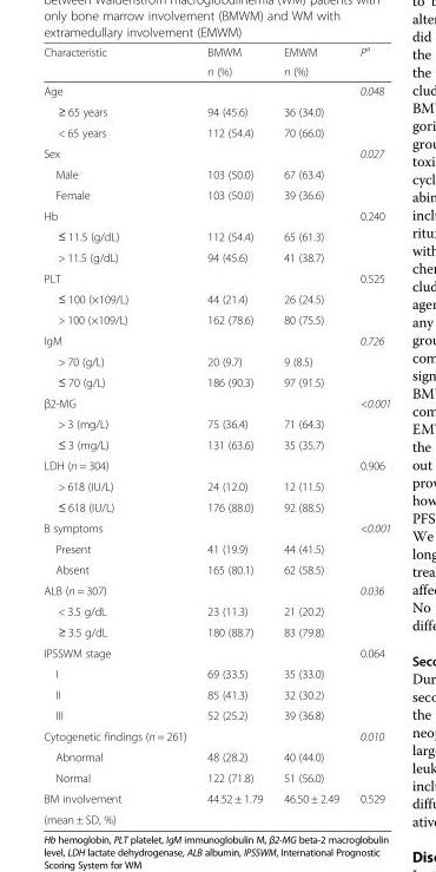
<table><thead><tr><td rowspan="2">Characteristic</td><td rowspan="2">BMWM n (%)</td><td rowspan="2">EMWM n (%)</td><td rowspan="2">P<sup>a</sup></td></tr><tr></tr></thead><tbody><tr><td colspan="3">Age</td><td rowspan="3">0.048</td></tr><tr><td>≥ 65 years</td><td>94 (45.6)</td><td>36 (34.0)</td></tr><tr><td>&lt; 65 years</td><td>112 (54.4)</td><td>70 (66.0)</td></tr><tr><td colspan="3">Sex</td><td rowspan="3">0.027</td></tr><tr><td>Male</td><td>103 (50.0)</td><td>67 (63.4)</td></tr><tr><td>Female</td><td>103 (50.0)</td><td>39 (36.6)</td></tr><tr><td colspan="3">Hb</td><td rowspan="3">0.240</td></tr><tr><td>≤ 11.5 (g/dL)</td><td>112 (54.4)</td><td>65 (61.3)</td></tr><tr><td>&gt; 11.5 (g/dL)</td><td>94 (45.6)</td><td>41 (38.7)</td></tr><tr><td colspan="3">PLT</td><td rowspan="3">0.525</td></tr><tr><td>≤ 100 (×109/L)</td><td>44 (21.4)</td><td>26 (24.5)</td></tr><tr><td>&gt; 100 (×109/L)</td><td>162 (78.6)</td><td>80 (75.5)</td></tr><tr><td colspan="3">IgM</td><td rowspan="3">0.726</td></tr><tr><td>&gt; 70 (g/L)</td><td>20 (9.7)</td><td>9 (8.5)</td></tr><tr><td>≤ 70 (g/L)</td><td>186 (90.3)</td><td>97 (91.5)</td></tr><tr><td colspan="3">β2-MG</td><td rowspan="3">&lt;0.001</td></tr><tr><td>&gt; 3 (mg/L)</td><td>75 (36.4)</td><td>71 (64.3)</td></tr><tr><td>≤ 3 (mg/L)</td><td>131 (63.6)</td><td>35 (35.7)</td></tr><tr><td colspan="3">LDH (n = 304)</td><td rowspan="3">0.906</td></tr><tr><td>&gt; 618 (IU/L)</td><td>24 (12.0)</td><td>12 (11.5)</td></tr><tr><td>≤ 618 (IU/L)</td><td>176 (88.0)</td><td>92 (88.5)</td></tr><tr><td colspan="3">B symptoms</td><td rowspan="3">&lt;0.001</td></tr><tr><td>Present</td><td>41 (19.9)</td><td>44 (41.5)</td></tr><tr><td>Absent</td><td>165 (80.1)</td><td>62 (58.5)</td></tr><tr><td colspan="3">ALB (n = 307)</td><td rowspan="3">0.036</td></tr><tr><td>&lt; 3.5 g/dL</td><td>23 (11.3)</td><td>21 (20.2)</td></tr><tr><td>≥ 3.5 g/dL</td><td>180 (88.7)</td><td>83 (79.8)</td></tr><tr><td colspan="3">IPSSWM stage</td><td rowspan="4">0.064</td></tr><tr><td>I</td><td>69 (33.5)</td><td>35 (33.0)</td></tr><tr><td>II</td><td>85 (41.3)</td><td>32 (30.2)</td></tr><tr><td>III</td><td>52 (25.2)</td><td>39 (36.8)</td></tr><tr><td colspan="3">Cytogenetic findings (n = 261)</td><td rowspan="3">0.010</td></tr><tr><td>Abnormal</td><td>48 (28.2)</td><td>40 (44.0)</td></tr><tr><td>Normal</td><td>122 (71.8)</td><td>51 (56.0)</td></tr><tr><td>BM involvement</td><td rowspan="2">44.52 ± 1.79</td><td rowspan="2">46.50 ± 2.49</td><td rowspan="2">0.529</td></tr><tr><td>(mean ± SD, %)</td></tr></tbody></table>